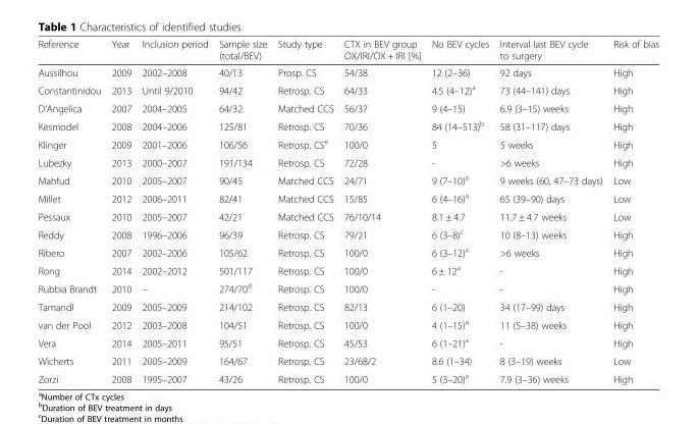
<table><thead><tr><td>Reference</td><td>Year</td><td>Inclusion period</td><td>Sample size (total/BEV)</td><td>Study type</td><td>CTX in BEV group OX/IRI/OX + IRI [%]</td><td>No BEV cycles</td><td>Interval last BEV cycle to surgery</td><td>Risk of bias</td></tr></thead><tbody><tr><td>Aussilhou</td><td>2009</td><td>2002–2008</td><td>40/13</td><td>Prosp. CS</td><td>54/38</td><td>12 (2–36)</td><td>92 days</td><td>High</td></tr><tr><td>Constantinidou</td><td>2013</td><td>Until 9/2010</td><td>94/42</td><td>Retrosp. CS</td><td>64/33</td><td>4.5 (4–12)<sup>a</sup></td><td>73 (44–141) days</td><td>High</td></tr><tr><td>D’Angelica</td><td>2007</td><td>2004–2005</td><td>64/32</td><td>Matched CCS</td><td>56/37</td><td>9 (4–15)</td><td>6.9 (3–15) weeks</td><td>High</td></tr><tr><td>Kesmodel</td><td>2008</td><td>2004–2006</td><td>125/81</td><td>Retrosp. CS</td><td>70/36</td><td>84 (14–513)<sup>b</sup></td><td>58 (31–117) days</td><td>High</td></tr><tr><td>Klinger</td><td>2009</td><td>2001–2006</td><td>106/56</td><td>Retrosp. CS<sup>e</sup></td><td>100/0</td><td>5</td><td>5 weeks</td><td>High</td></tr><tr><td>Lubezky</td><td>2013</td><td>2000–2007</td><td>191/134</td><td>Retrosp. CS</td><td>72/28</td><td>-</td><td>&gt;6 weeks</td><td>High</td></tr><tr><td>Mahfud</td><td>2010</td><td>2005–2007</td><td>90/45</td><td>Matched CCS</td><td>24/71</td><td>9 (7–10)<sup>a</sup></td><td>9 weeks (60, 47–73 days)</td><td>Low</td></tr><tr><td>Millet</td><td>2012</td><td>2006–2011</td><td>82/41</td><td>Matched CCS</td><td>15/85</td><td>6 (4–16)<sup>a</sup></td><td>65 (39–90) days</td><td>Low</td></tr><tr><td>Pessaux</td><td>2010</td><td>2005–2007</td><td>42/21</td><td>Matched CCS</td><td>76/10/14</td><td>8.1 ± 4.7</td><td>11.7 ± 4.7 weeks</td><td>Low</td></tr><tr><td>Reddy</td><td>2008</td><td>1996–2006</td><td>96/39</td><td>Retrosp. CS</td><td>79/21</td><td>6 (3–8)<sup>c</sup></td><td>10 (8–13) weeks</td><td>High</td></tr><tr><td>Ribero</td><td>2007</td><td>2002–2006</td><td>105/62</td><td>Retrosp. CS</td><td>100/0</td><td>6 (3–12)<sup>a</sup></td><td>&gt;6 weeks</td><td>High</td></tr><tr><td>Rong</td><td>2014</td><td>2002–2012</td><td>501/117</td><td>Retrosp. CS</td><td>100/0</td><td>6 ± 12<sup>a</sup></td><td>-</td><td>High</td></tr><tr><td>Rubbia Brandt</td><td>2010</td><td>–</td><td>274/70<sup>d</sup></td><td>Retrosp. CS</td><td>100/0</td><td>-</td><td>-</td><td>High</td></tr><tr><td>Tamandl</td><td>2009</td><td>2005–2009</td><td>214/102</td><td>Retrosp. CS</td><td>82/13</td><td>6 (1–20)</td><td>34 (17–99) days</td><td>High</td></tr><tr><td>van der Pool</td><td>2012</td><td>2003–2008</td><td>104/51</td><td>Retrosp. CS</td><td>100/0</td><td>4 (1–15)<sup>a</sup></td><td>11 (5–38) weeks</td><td>High</td></tr><tr><td>Vera</td><td>2014</td><td>2005–2011</td><td>95/51</td><td>Retrosp. CS</td><td>45/53</td><td>6 (1–21)<sup>a</sup></td><td>-</td><td>High</td></tr><tr><td>Wicherts</td><td>2011</td><td>2005–2009</td><td>164/67</td><td>Retrosp. CS</td><td>23/68/2</td><td>8.6 (1–34)</td><td>8 (3–19) weeks</td><td>Low</td></tr><tr><td>Zorzi</td><td>2008</td><td>1995–2007</td><td>43/26</td><td>Retrosp. CS</td><td>100/0</td><td>5 (3–20)<sup>a</sup></td><td>7.9 (3–36) weeks</td><td>High</td></tr></tbody></table>